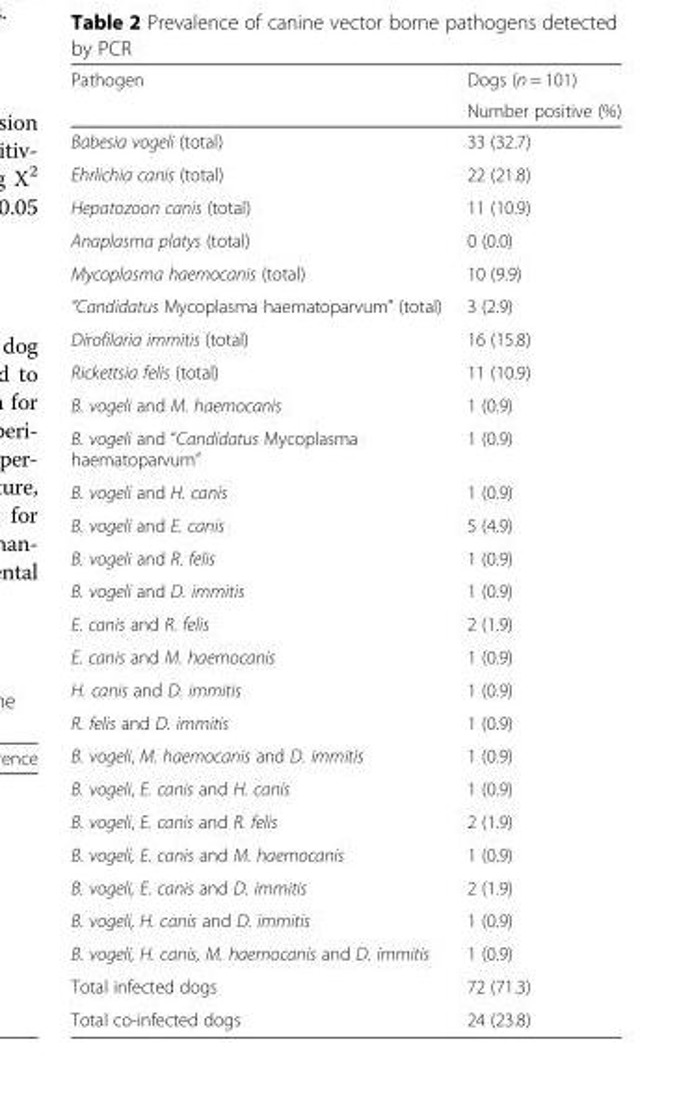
<table><thead><tr><td rowspan="2">Pathogen</td><td rowspan="2">Dogs (n = 101) Number positive (%)</td></tr><tr></tr></thead><tbody><tr><td>Babesia vogeli (total)</td><td>33 (32.7)</td></tr><tr><td>Ehrlichia canis (total)</td><td>22 (21.8)</td></tr><tr><td>Hepatozoon canis (total)</td><td>11 (10.9)</td></tr><tr><td>Anaplasma platys (total)</td><td>0 (0.0)</td></tr><tr><td>Mycoplasma haemocanis (total)</td><td>10 (9.9)</td></tr><tr><td>“Candidatus Mycoplasma haematoparvum” (total)</td><td>3 (2.9)</td></tr><tr><td>Dirofilaria immitis (total)</td><td>16 (15.8)</td></tr><tr><td>Rickettsia felis (total)</td><td>11 (10.9)</td></tr><tr><td>B. vogeli and M. haemocanis</td><td>1 (0.9)</td></tr><tr><td>B. vogeli and “Candidatus Mycoplasma haematoparvum”</td><td>1 (0.9)</td></tr><tr><td>B. vogeli and H. canis</td><td>1 (0.9)</td></tr><tr><td>B. vogeli and E. canis</td><td>5 (4.9)</td></tr><tr><td>B. vogeli and R. felis</td><td>1 (0.9)</td></tr><tr><td>B. vogeli and D. immitis</td><td>1 (0.9)</td></tr><tr><td>E. canis and R. felis</td><td>2 (1.9)</td></tr><tr><td>E. canis and M. haemocanis</td><td>1 (0.9)</td></tr><tr><td>H. canis and D. immitis</td><td>1 (0.9)</td></tr><tr><td>R. felis and D. immitis</td><td>1 (0.9)</td></tr><tr><td>B. vogeli, M. haemocanis and D. immitis</td><td>1 (0.9)</td></tr><tr><td>B. vogeli, E. canis and H. canis</td><td>1 (0.9)</td></tr><tr><td>B. vogeli, E. canis and R. felis</td><td>2 (1.9)</td></tr><tr><td>B. vogeli, E. canis and M. haemocanis</td><td>1 (0.9)</td></tr><tr><td>B. vogeli, E. canis and D. immitis</td><td>2 (1.9)</td></tr><tr><td>B. vogeli, H. canis and D. immitis</td><td>1 (0.9)</td></tr><tr><td>B. vogeli, H. canis, M. haemocanis and D. immitis</td><td>1 (0.9)</td></tr><tr><td>Total infected dogs</td><td>72 (71.3)</td></tr><tr><td>Total co-infected dogs</td><td>24 (23.8)</td></tr></tbody></table>